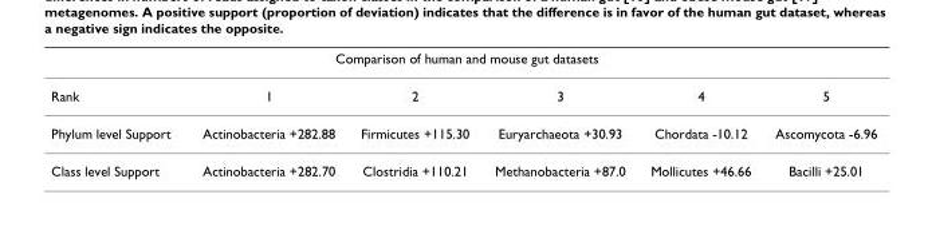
<table><thead><tr><td colspan="6">Comparison of human and mouse gut datasets</td></tr><tr><td>Rank</td><td>1</td><td>2</td><td>3</td><td>4</td><td>5</td></tr></thead><tbody><tr><td>Phylum level Support</td><td>Actinobacteria +282.88</td><td>Firmicutes +115.30</td><td>Euryarchaeota +30.93</td><td>Chordata -10.12</td><td>Ascomycota -6.96</td></tr><tr><td>Class level Support</td><td>Actinobacteria +282.70</td><td>Clostridia +110.21</td><td>Methanobacteria +87.0</td><td>Mollicutes +46.66</td><td>Bacilli +25.01</td></tr></tbody></table>